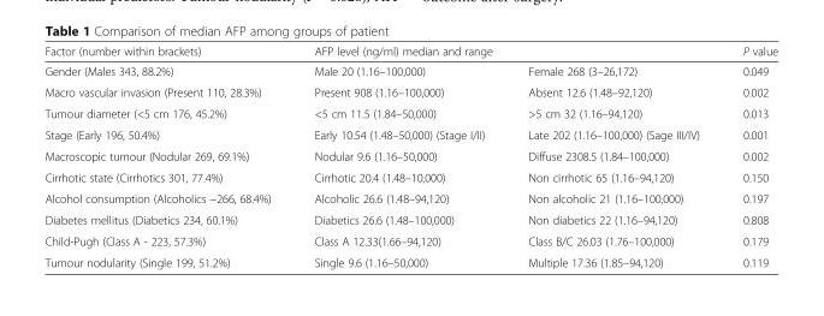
<table><thead><tr><td rowspan="2">Factor (number within brackets) Gender (Males 343, 88.2%)</td><td colspan="2">AFP level (ng/ml) median and range</td><td rowspan="2">P value 0.049</td></tr><tr><td>Male 20 (1.16–100,000)</td><td>Female 268 (3–26,172)</td></tr></thead><tbody><tr><td>Macro vascular invasion (Present 110, 28.3%)</td><td>Present 908 (1.16–100,000)</td><td>Absent 12.6 (1.48–92,120)</td><td>0.002</td></tr><tr><td>Tumour diameter (&lt;5 cm 176, 45.2%)</td><td>&lt;5 cm 11.5 (1.84–50,000)</td><td>&gt;5 cm 32 (1.16–94,120)</td><td>0.013</td></tr><tr><td>Stage (Early 196, 50.4%)</td><td>Early 10.54 (1.48–50,000) (Stage I/II)</td><td>Late 202 (1.16–100,000) (Sage III/IV)</td><td>0.001</td></tr><tr><td>Macroscopic tumour (Nodular 269, 69.1%)</td><td>Nodular 9.6 (1.16–50,000)</td><td>Diffuse 2308.5 (1.84–100,000)</td><td>0.002</td></tr><tr><td>Cirrhotic state (Cirrhotics 301, 77.4%)</td><td>Cirrhotic 20.4 (1.48–10,000)</td><td>Non cirrhotic 65 (1.16–94,120)</td><td>0.150</td></tr><tr><td>Alcohol consumption (Alcoholics −266, 68.4%)</td><td>Alcoholic 26.6 (1.48–94,120)</td><td>Non alcoholic 21 (1.16–100,000)</td><td>0.197</td></tr><tr><td>Diabetes mellitus (Diabetics 234, 60.1%)</td><td>Diabetics 26.6 (1.48–100,000)</td><td>Non diabetics 22 (1.16–94,120)</td><td>0.808</td></tr><tr><td>Child-Pugh (Class A - 223, 57.3%)</td><td>Class A 12.33(1.66–94,120)</td><td>Class B/C 26.03 (1.76–100,000)</td><td>0.179</td></tr><tr><td>Tumour nodularity (Single 199, 51.2%)</td><td>Single 9.6 (1.16–50,000)</td><td>Multiple 17.36 (1.85–94,120)</td><td>0.119</td></tr></tbody></table>